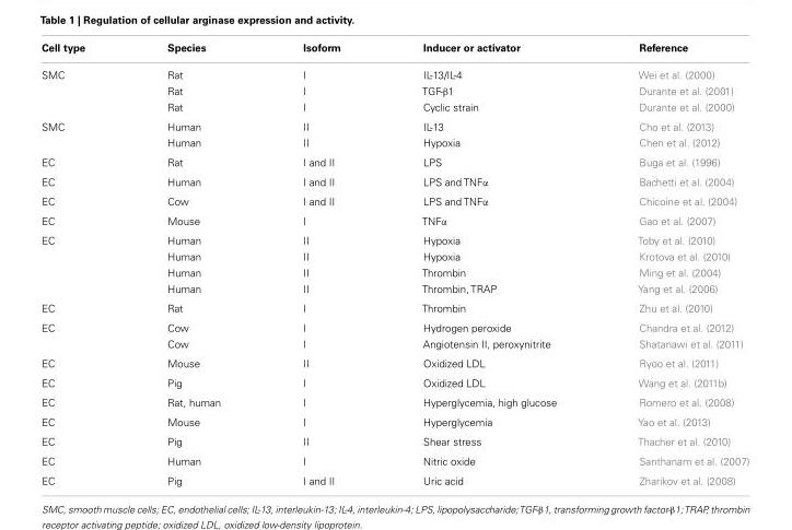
<table><thead><tr><td>Cell type</td><td>Species</td><td>Isoform</td><td>Inducer or activator</td><td>Reference</td></tr></thead><tbody><tr><td rowspan="3">SMC</td><td>Rat</td><td>I</td><td>IL-13/IL-4</td><td>Wei et al. (2000)</td></tr><tr><td>Rat</td><td>I</td><td>TGF-β1</td><td>Durante et al. (2001)</td></tr><tr><td>Rat</td><td>I</td><td>Cyclic strain</td><td>Durante et al. (2000)</td></tr><tr><td rowspan="2">SMC</td><td>Human</td><td>II</td><td>IL-13</td><td>Cho et al. (2013)</td></tr><tr><td>Human</td><td>II</td><td>Hypoxia</td><td>Chen et al. (2012)</td></tr><tr><td>EC</td><td>Rat</td><td>I and II</td><td>LPS</td><td>Buga et al. (1996)</td></tr><tr><td>EC</td><td>Human</td><td>I and II</td><td>LPS and TNFα</td><td>Bachetti et al. (2004)</td></tr><tr><td>EC</td><td>Cow</td><td>I and II</td><td>LPS and TNFα</td><td>Chicoine et al. (2004)</td></tr><tr><td>EC</td><td>Mouse</td><td>I</td><td>TNFα</td><td>Gao et al. (2007)</td></tr><tr><td rowspan="4">EC</td><td>Human</td><td>II</td><td>Hypoxia</td><td>Toby et al. (2010)</td></tr><tr><td>Human</td><td>II</td><td>Hypoxia</td><td>Krotova et al. (2010)</td></tr><tr><td>Human</td><td>II</td><td>Thrombin</td><td>Ming et al. (2004)</td></tr><tr><td>Human</td><td>II</td><td>Thrombin, TRAP</td><td>Yang et al. (2006)</td></tr><tr><td>EC</td><td>Rat</td><td>I</td><td>Thrombin</td><td>Zhu et al. (2010)</td></tr><tr><td rowspan="2">EC</td><td>Cow</td><td>I</td><td>Hydrogen peroxide</td><td>Chandra et al. (2012)</td></tr><tr><td>Cow</td><td>I</td><td>Angiotensin II, peroxynitrite</td><td>Shatanawi et al. (2011)</td></tr><tr><td>EC</td><td>Mouse</td><td>II</td><td>Oxidized LDL</td><td>Ryoo et al. (2011)</td></tr><tr><td>EC</td><td>Pig</td><td>I</td><td>Oxidized LDL</td><td>Wang et al. (2011b)</td></tr><tr><td>EC</td><td>Rat, human</td><td>I</td><td>Hyperglycemia, high glucose</td><td>Romero et al. (2008)</td></tr><tr><td>EC</td><td>Mouse</td><td>I</td><td>Hyperglycemia</td><td>Yao et al. (2013)</td></tr><tr><td>EC</td><td>Pig</td><td>II</td><td>Shear stress</td><td>Thacher et al. (2010)</td></tr><tr><td>EC</td><td>Human</td><td>I</td><td>Nitric oxide</td><td>Santhanam et al. (2007)</td></tr><tr><td>EC</td><td>Pig</td><td>I and II</td><td>Uric acid</td><td>Zharikov et al. (2008)</td></tr></tbody></table>